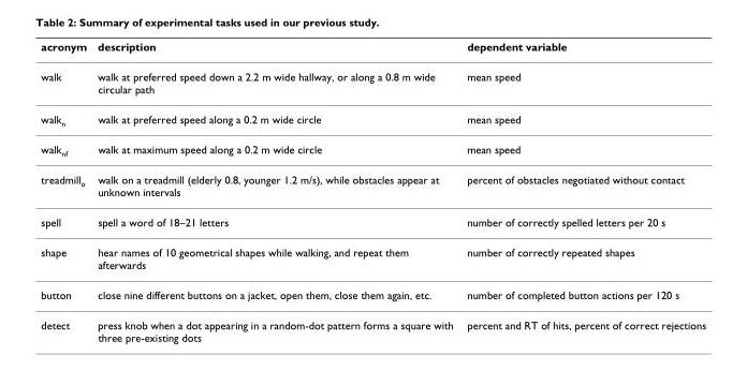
<table><thead><tr><td>acronym</td><td>description</td><td>dependent variable</td></tr></thead><tbody><tr><td>walk</td><td>walk at preferred speed down a 2.2 m wide hallway, or along a 0.8 m wide circular path</td><td>mean speed</td></tr><tr><td>walk<sub>n</sub></td><td>walk at preferred speed along a 0.2 m wide circle</td><td>mean speed</td></tr><tr><td>walk<sub>nf</sub></td><td>walk at maximum speed along a 0.2 m wide circle</td><td>mean speed</td></tr><tr><td>treadmill<sub>o</sub></td><td>walk on a treadmill (elderly 0.8, younger 1.2 m/s), while obstacles appear at unknown intervals</td><td>percent of obstacles negotiated without contact</td></tr><tr><td>spell</td><td>spell a word of 18–21 letters</td><td>number of correctly spelled letters per 20 s</td></tr><tr><td>shape</td><td>hear names of 10 geometrical shapes while walking, and repeat them afterwards</td><td>number of correctly repeated shapes</td></tr><tr><td>button</td><td>close nine different buttons on a jacket, open them, close them again, etc.</td><td>number of completed button actions per 120 s</td></tr><tr><td>detect</td><td>press knob when a dot appearing in a random-dot pattern forms a square with three pre-existing dots</td><td>percent and RT of hits, percent of correct rejections</td></tr></tbody></table>